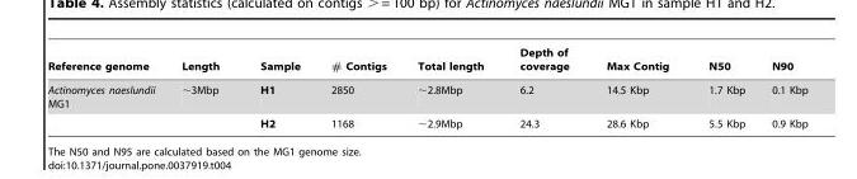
<table><thead><tr><td>Reference genome</td><td>Length</td><td>Sample</td><td># Contigs</td><td>Total length</td><td>Depth of coverage</td><td>Max Contig</td><td>N50</td><td>N90</td></tr></thead><tbody><tr><td rowspan="2">Actinomyces naeslundii MG1</td><td>∼3Mbp</td><td>H1</td><td>2850</td><td>∼2.8Mbp</td><td>6.2</td><td>14.5 Kbp</td><td>1.7 Kbp</td><td>0.1 Kbp</td></tr><tr><td></td><td>H2</td><td>1168</td><td>∼2.9Mbp</td><td>24.3</td><td>28.6 Kbp</td><td>5.5 Kbp</td><td>0.9 Kbp</td></tr></tbody></table>